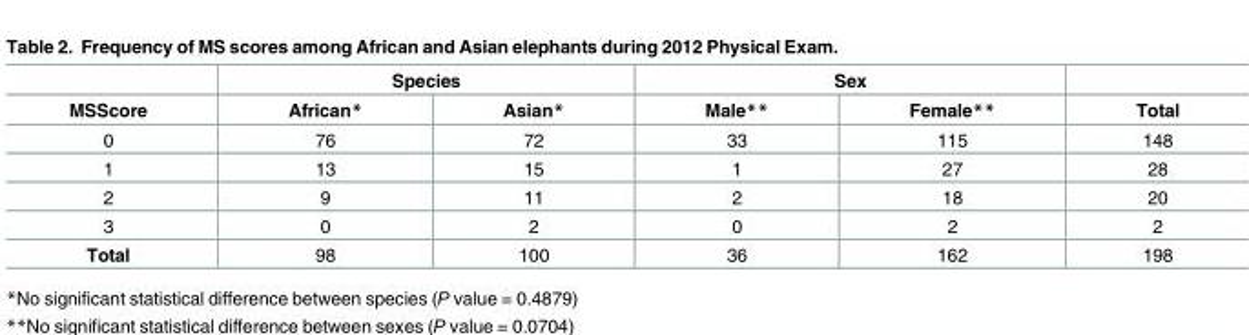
<table><thead><tr><td rowspan="2">MSScore</td><td colspan="2">Species</td><td colspan="2">Sex</td><td rowspan="2">Total</td></tr><tr><td>African*</td><td>Asian*</td><td>Male**</td><td>Female**</td></tr></thead><tbody><tr><td>0</td><td>76</td><td>72</td><td>33</td><td>115</td><td>148</td></tr><tr><td>1</td><td>13</td><td>15</td><td>1</td><td>27</td><td>28</td></tr><tr><td>2</td><td>9</td><td>11</td><td>2</td><td>18</td><td>20</td></tr><tr><td>3</td><td>0</td><td>2</td><td>0</td><td>2</td><td>2</td></tr><tr><td>Total</td><td>98</td><td>100</td><td>36</td><td>162</td><td>198</td></tr></tbody></table>